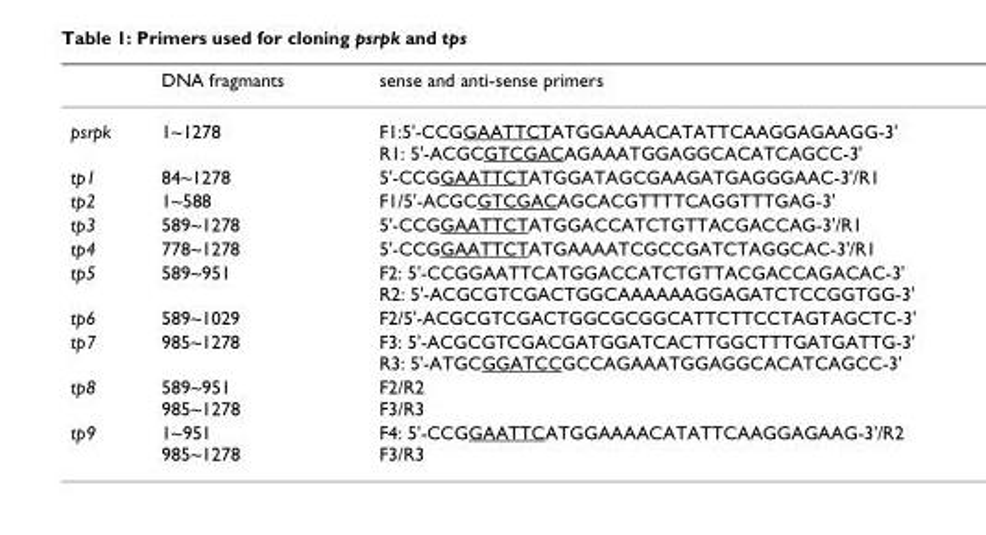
<table><thead><tr><td></td><td>DNA fragmants</td><td>sense and anti-sense primers</td></tr></thead><tbody><tr><td>psrpk</td><td>1~1278</td><td>F1:5&#x27;-CCGGAATTCTATGGAAAACATATTCAAGGAGAAGG-3&#x27; R1: 5&#x27;-ACGCGTCGACAGAAATGGAGGCACATCAGCC-3&#x27;</td></tr><tr><td>tp1</td><td>84~1278</td><td>5&#x27;-CCGGAATTCTATGGATAGCGAAGATGAGGGAAC-3&#x27;/R1</td></tr><tr><td>tp2</td><td>1~588</td><td>F1/5&#x27;-ACGCGTCGACAGCACGTTTTCAGGTTTGAG-3&#x27;</td></tr><tr><td>tp3</td><td>589~1278</td><td>5&#x27;-CCGGAATTCTATGGACCATCTGTTACGACCAG-3&#x27;/R1</td></tr><tr><td>tp4</td><td>778~1278</td><td>5&#x27;-CCGGAATTCTATGAAAATCGCCGATCTAGGCAC-3&#x27;/R1</td></tr><tr><td>tp5</td><td>589~951</td><td>F2: 5&#x27;-CCGGAATTCATGGACCATCTGTTACGACCAGACAC-3&#x27; R2: 5&#x27;-ACGCGTCGACTGGCAAAAAAGGAGATCTCCGGTGG-3&#x27;</td></tr><tr><td>tp6</td><td>589~1029</td><td>F2/5&#x27;-ACGCGTCGACTGGCGCGGCATTCTTCCTAGTAGCTC-3&#x27;</td></tr><tr><td>tp7</td><td>985~1278</td><td>F3: 5&#x27;-ACGCGTCGACGATGGATCACTTGGCTTTGATGATTG-3&#x27; R3: 5&#x27;-ATGCGGATCCGCCAGAAATGGAGGCACATCAGCC-3&#x27;</td></tr><tr><td>tp8</td><td>589~951 985~1278</td><td>F2/R2 F3/R3</td></tr><tr><td>tp9</td><td>1~951 985~1278</td><td>F4: 5&#x27;-CCGGAATTCATGGAAAACATATTCAAGGAGAAG-3&#x27;/R2 F3/R3</td></tr></tbody></table>